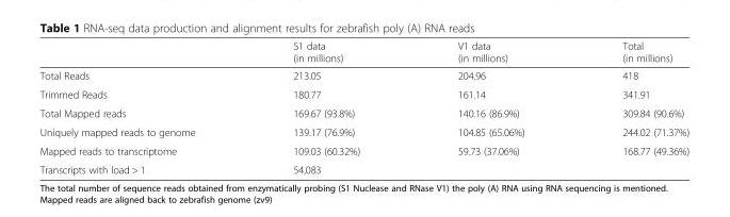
<table><thead><tr><td></td><td>S1 data (in millions)</td><td>V1 data (in millions)</td><td>Total (in millions)</td></tr></thead><tbody><tr><td>Total Reads</td><td>213.05</td><td>204.96</td><td>418</td></tr><tr><td>Trimmed Reads</td><td>180.77</td><td>161.14</td><td>341.91</td></tr><tr><td>Total Mapped reads</td><td>169.67 (93.8%)</td><td>140.16 (86.9%)</td><td>309.84 (90.6%)</td></tr><tr><td>Uniquely mapped reads to genome</td><td>139.17 (76.9%)</td><td>104.85 (65.06%)</td><td>244.02 (71.37%)</td></tr><tr><td>Mapped reads to transcriptome</td><td>109.03 (60.32%)</td><td>59.73 (37.06%)</td><td>168.77 (49.36%)</td></tr><tr><td>Transcripts with load &gt; 1</td><td colspan="3">54,083</td></tr></tbody></table>